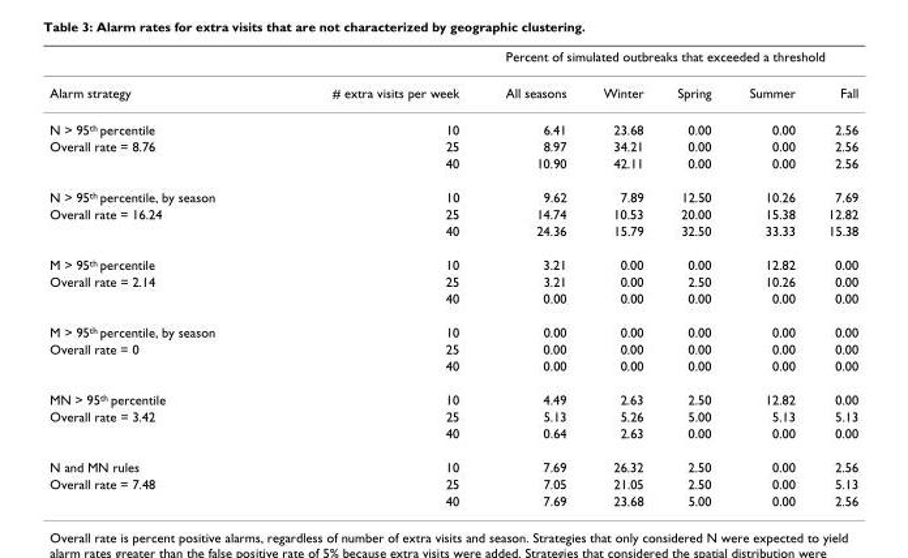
<table><thead><tr><td rowspan="2">Alarm strategy</td><td rowspan="2"># extra visits per week</td><td colspan="5">Percent of simulated outbreaks that exceeded a threshold</td></tr><tr><td>All seasons</td><td>Winter</td><td>Spring</td><td>Summer</td><td>Fall</td></tr></thead><tbody><tr><td>N &gt; 95<sup>th</sup> percentile</td><td>10</td><td>6.41</td><td>23.68</td><td>0.00</td><td>0.00</td><td>2.56</td></tr><tr><td rowspan="2">Overall rate = 8.76</td><td>25</td><td>8.97</td><td>34.21</td><td>0.00</td><td>0.00</td><td>2.56</td></tr><tr><td>40</td><td>10.90</td><td>42.11</td><td>0.00</td><td>0.00</td><td>2.56</td></tr><tr><td>N &gt; 95<sup>th</sup> percentile, by season</td><td>10</td><td>9.62</td><td>7.89</td><td>12.50</td><td>10.26</td><td>7.69</td></tr><tr><td rowspan="2">Overall rate = 16.24</td><td>25</td><td>14.74</td><td>10.53</td><td>20.00</td><td>15.38</td><td>12.82</td></tr><tr><td>40</td><td>24.36</td><td>15.79</td><td>32.50</td><td>33.33</td><td>15.38</td></tr><tr><td>M &gt; 95<sup>th</sup> percentile</td><td>10</td><td>3.21</td><td>0.00</td><td>0.00</td><td>12.82</td><td>0.00</td></tr><tr><td rowspan="2">Overall rate = 2.14</td><td>25</td><td>3.21</td><td>0.00</td><td>2.50</td><td>10.26</td><td>0.00</td></tr><tr><td>40</td><td>0.00</td><td>0.00</td><td>0.00</td><td>0.00</td><td>0.00</td></tr><tr><td>M &gt; 95<sup>th</sup> percentile, by season</td><td>10</td><td>0.00</td><td>0.00</td><td>0.00</td><td>0.00</td><td>0.00</td></tr><tr><td rowspan="2">Overall rate = 0</td><td>25</td><td>0.00</td><td>0.00</td><td>0.00</td><td>0.00</td><td>0.00</td></tr><tr><td>40</td><td>0.00</td><td>0.00</td><td>0.00</td><td>0.00</td><td>0.00</td></tr><tr><td>MN &gt; 95<sup>th</sup> percentile</td><td>10</td><td>4.49</td><td>2.63</td><td>2.50</td><td>12.82</td><td>0.00</td></tr><tr><td rowspan="2">Overall rate = 3.42</td><td>25</td><td>5.13</td><td>5.26</td><td>5.00</td><td>5.13</td><td>5.13</td></tr><tr><td>40</td><td>0.64</td><td>2.63</td><td>0.00</td><td>0.00</td><td>0.00</td></tr><tr><td>N and MN rules</td><td>10</td><td>7.69</td><td>26.32</td><td>2.50</td><td>0.00</td><td>2.56</td></tr><tr><td rowspan="2">Overall rate = 7.48</td><td>25</td><td>7.05</td><td>21.05</td><td>2.50</td><td>0.00</td><td>5.13</td></tr><tr><td>40</td><td>7.69</td><td>23.68</td><td>5.00</td><td>0.00</td><td>2.56</td></tr></tbody></table>